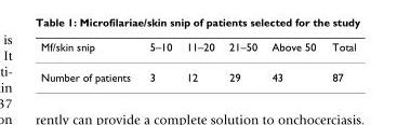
<table><thead><tr><td>Mf/skin snip</td><td>5–10</td><td>11–20</td><td>21–50</td><td>Above 50</td><td>Total</td></tr></thead><tbody><tr><td>Number of patients</td><td>3</td><td>12</td><td>29</td><td>43</td><td>87</td></tr></tbody></table>